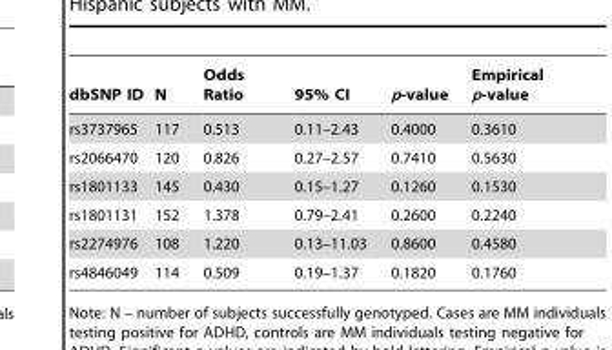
<table><thead><tr><td>dbSNP ID</td><td>N</td><td>Odds Ratio</td><td>95% CI</td><td>p-value</td><td>Empirical p-value</td></tr></thead><tbody><tr><td>rs3737965</td><td>117</td><td>0.513</td><td>0.11–2.43</td><td>0.4000</td><td>0.3610</td></tr><tr><td>rs2066470</td><td>120</td><td>0.826</td><td>0.27–2.57</td><td>0.7410</td><td>0.5630</td></tr><tr><td>rs1801133</td><td>145</td><td>0.430</td><td>0.15–1.27</td><td>0.1260</td><td>0.1530</td></tr><tr><td>rs1801131</td><td>152</td><td>1.378</td><td>0.79–2.41</td><td>0.2600</td><td>0.2240</td></tr><tr><td>rs2274976</td><td>108</td><td>1.220</td><td>0.13–11.03</td><td>0.8600</td><td>0.4580</td></tr><tr><td>rs4846049</td><td>114</td><td>0.509</td><td>0.19–1.37</td><td>0.1820</td><td>0.1760</td></tr></tbody></table>